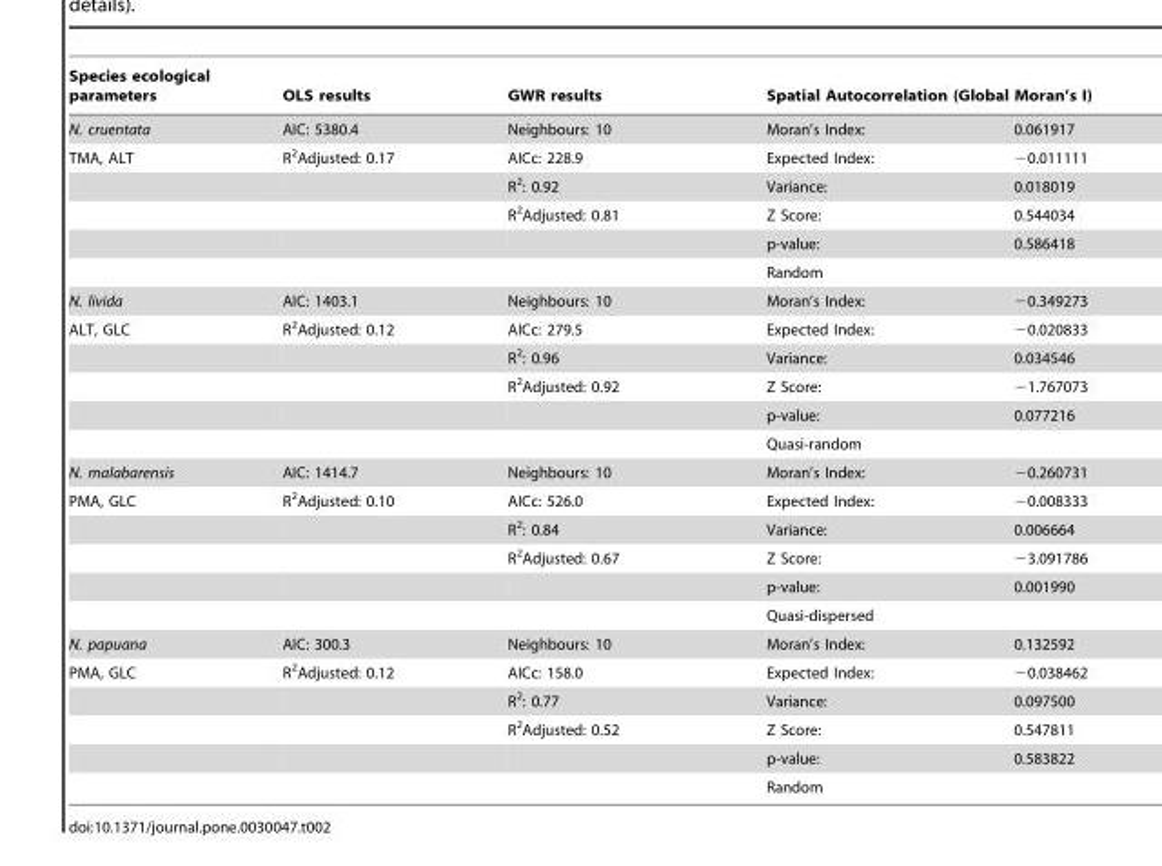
<table><thead><tr><td rowspan="2">Species ecological parameters N. cruentata</td><td rowspan="2">OLS results AIC: 5380.4</td><td rowspan="2">GWR results Neighbours: 10</td><td colspan="2">Spatial Autocorrelation (Global Moran’s I)</td></tr><tr><td>Moran’s Index:</td><td>0.061917</td></tr></thead><tbody><tr><td rowspan="5">TMA, ALT</td><td>R<sup>2</sup>Adjusted: 0.17</td><td>AICc: 228.9</td><td>Expected Index:</td><td>−0.011111</td></tr><tr><td></td><td>R<sup>2</sup>: 0.92</td><td>Variance:</td><td>0.018019</td></tr><tr><td></td><td>R<sup>2</sup>Adjusted: 0.81</td><td>Z Score:</td><td>0.544034</td></tr><tr><td></td><td></td><td>p-value:</td><td>0.586418</td></tr><tr><td></td><td></td><td>Random</td><td></td></tr><tr><td>N. livida</td><td>AIC: 1403.1</td><td>Neighbours: 10</td><td>Moran’s Index:</td><td>−0.349273</td></tr><tr><td rowspan="5">ALT, GLC</td><td>R<sup>2</sup>Adjusted: 0.12</td><td>AICc: 279.5</td><td>Expected Index:</td><td>−0.020833</td></tr><tr><td></td><td>R<sup>2</sup>: 0.96</td><td>Variance:</td><td>0.034546</td></tr><tr><td></td><td>R<sup>2</sup>Adjusted: 0.92</td><td>Z Score:</td><td>−1.767073</td></tr><tr><td></td><td></td><td>p-value:</td><td>0.077216</td></tr><tr><td></td><td></td><td>Quasi-random</td><td></td></tr><tr><td>N. malabarensis</td><td>AIC: 1414.7</td><td>Neighbours: 10</td><td>Moran’s Index:</td><td>−0.260731</td></tr><tr><td rowspan="5">PMA, GLC</td><td>R<sup>2</sup>Adjusted: 0.10</td><td>AICc: 526.0</td><td>Expected Index:</td><td>−0.008333</td></tr><tr><td></td><td>R<sup>2</sup>: 0.84</td><td>Variance:</td><td>0.006664</td></tr><tr><td></td><td>R<sup>2</sup>Adjusted: 0.67</td><td>Z Score:</td><td>−3.091786</td></tr><tr><td></td><td></td><td>p-value:</td><td>0.001990</td></tr><tr><td></td><td></td><td>Quasi-dispersed</td><td></td></tr><tr><td>N. papuana</td><td>AIC: 300.3</td><td>Neighbours: 10</td><td>Moran’s Index:</td><td>0.132592</td></tr><tr><td rowspan="5">PMA, GLC</td><td>R<sup>2</sup>Adjusted: 0.12</td><td>AICc: 158.0</td><td>Expected Index:</td><td>−0.038462</td></tr><tr><td></td><td>R<sup>2</sup>: 0.77</td><td>Variance:</td><td>0.097500</td></tr><tr><td></td><td>R<sup>2</sup>Adjusted: 0.52</td><td>Z Score:</td><td>0.547811</td></tr><tr><td></td><td></td><td>p-value:</td><td>0.583822</td></tr><tr><td></td><td></td><td>Random</td><td></td></tr></tbody></table>